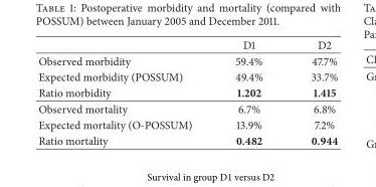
<table><thead><tr><td></td><td>D1</td><td>D2</td></tr></thead><tbody><tr><td>Observed morbidity</td><td>59.4%</td><td>47.7%</td></tr><tr><td>Expected morbidity (POSSUM)</td><td>49.4%</td><td>33.7%</td></tr><tr><td>Ratio morbidity</td><td>1.202</td><td>1.415</td></tr><tr><td>Observed mortality</td><td>6.7%</td><td>6.8%</td></tr><tr><td>Expected mortality (O-POSSUM)</td><td>13.9%</td><td>7.2%</td></tr><tr><td>Ratio mortality</td><td>0.482</td><td>0.944</td></tr></tbody></table>